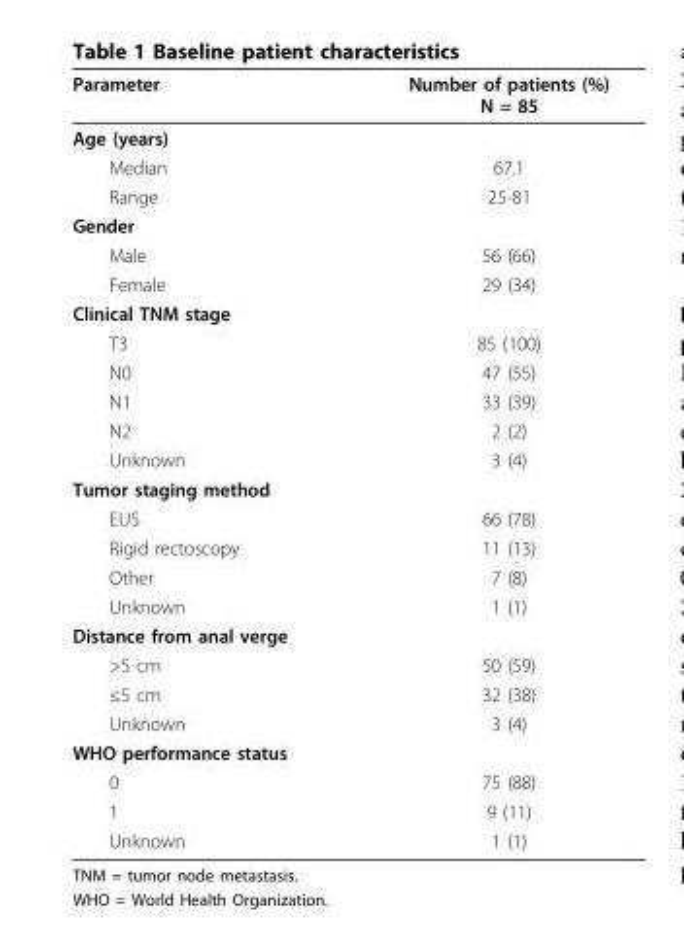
<table><thead><tr><td>Parameter</td><td>Number of patients (%) N = 85</td></tr></thead><tbody><tr><td colspan="2">Age (years)</td></tr><tr><td>Median</td><td>67.1</td></tr><tr><td>Range</td><td>25-81</td></tr><tr><td colspan="2">Gender</td></tr><tr><td>Male</td><td>56 (66)</td></tr><tr><td>Female</td><td>29 (34)</td></tr><tr><td colspan="2">Clinical TNM stage</td></tr><tr><td>T3</td><td>85 (100)</td></tr><tr><td>N0</td><td>47 (55)</td></tr><tr><td>N1</td><td>33 (39)</td></tr><tr><td>N2</td><td>2 (2)</td></tr><tr><td>Unknown</td><td>3 (4)</td></tr><tr><td colspan="2">Tumor staging method</td></tr><tr><td>EUS</td><td>66 (78)</td></tr><tr><td>Rigid rectoscopy</td><td>11 (13)</td></tr><tr><td>Other</td><td>7 (8)</td></tr><tr><td>Unknown</td><td>1 (1)</td></tr><tr><td colspan="2">Distance from anal verge</td></tr><tr><td>&gt;5 cm</td><td>50 (59)</td></tr><tr><td>≤5 cm</td><td>32 (38)</td></tr><tr><td>Unknown</td><td>3 (4)</td></tr><tr><td colspan="2">WHO performance status</td></tr><tr><td>0</td><td>75 (88)</td></tr><tr><td>1</td><td>9 (11)</td></tr><tr><td>Unknown</td><td>1 (1)</td></tr></tbody></table>